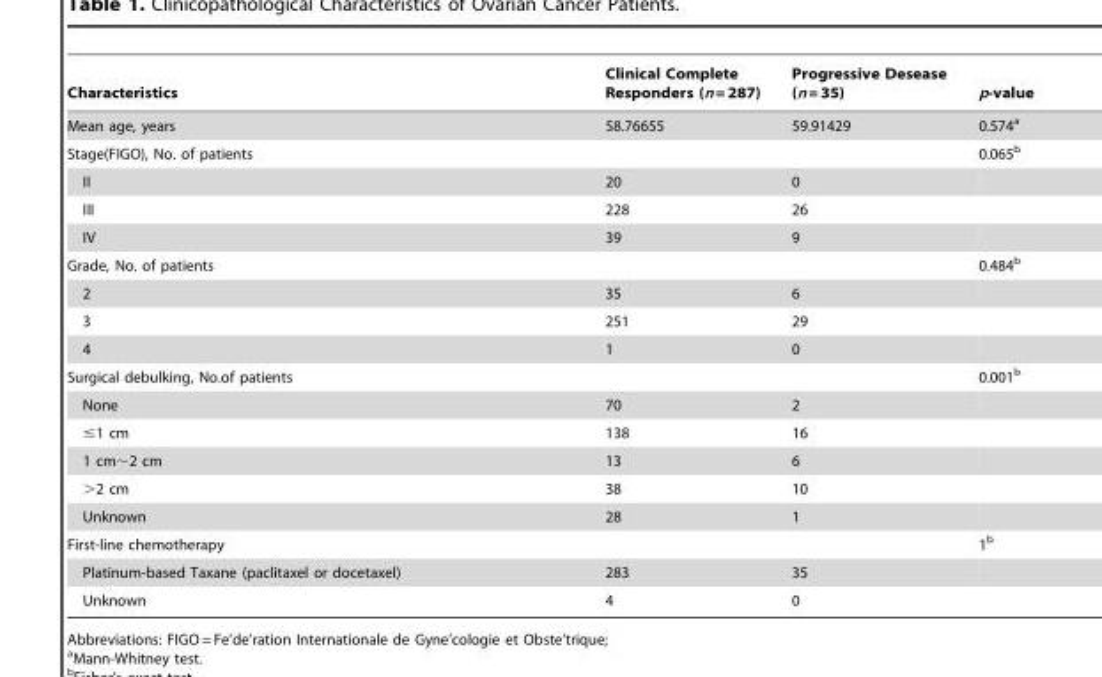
<table><thead><tr><td>Characteristics</td><td>Clinical Complete Responders (n = 287)</td><td>Progressive Desease (n = 35)</td><td>p-value</td></tr></thead><tbody><tr><td>Mean age, years</td><td>58.76655</td><td>59.91429</td><td>0.574<sup>a</sup></td></tr><tr><td colspan="2">Stage(FIGO), No. of patients</td><td></td><td>0.065<sup>b</sup></td></tr><tr><td>II</td><td>20</td><td>0</td><td></td></tr><tr><td>III</td><td>228</td><td>26</td><td></td></tr><tr><td>IV</td><td>39</td><td>9</td><td></td></tr><tr><td>Grade, No. of patients</td><td></td><td></td><td>0.484<sup>b</sup></td></tr><tr><td>2</td><td>35</td><td>6</td><td></td></tr><tr><td>3</td><td>251</td><td>29</td><td></td></tr><tr><td>4</td><td>1</td><td>0</td><td></td></tr><tr><td colspan="2">Surgical debulking, No.of patients</td><td></td><td>0.001<sup>b</sup></td></tr><tr><td>None</td><td>70</td><td>2</td><td></td></tr><tr><td>≤1 cm</td><td>138</td><td>16</td><td></td></tr><tr><td>1 cm∼2 cm</td><td>13</td><td>6</td><td></td></tr><tr><td>&gt;2 cm</td><td>38</td><td>10</td><td></td></tr><tr><td>Unknown</td><td>28</td><td>1</td><td></td></tr><tr><td>First-line chemotherapy</td><td></td><td></td><td>1<sup>b</sup></td></tr><tr><td>Platinum-based Taxane (paclitaxel or docetaxel)</td><td>283</td><td>35</td><td></td></tr><tr><td>Unknown</td><td>4</td><td>0</td><td></td></tr></tbody></table>